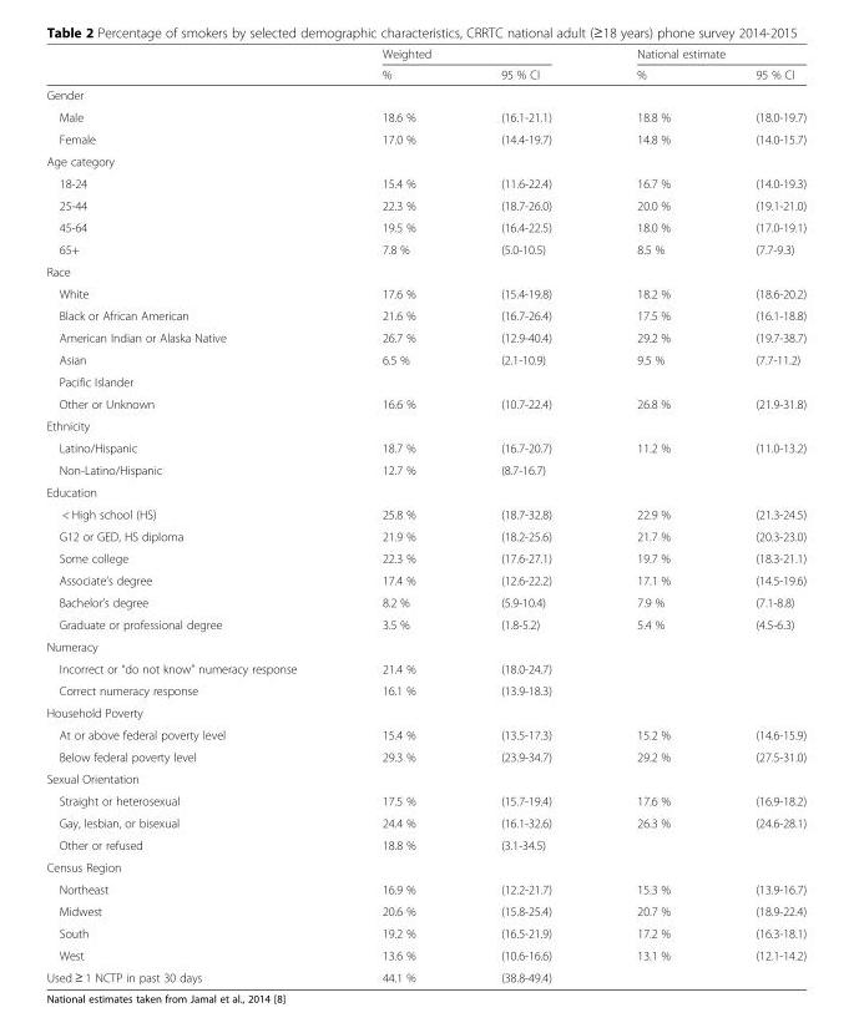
<table><thead><tr><td rowspan="2"></td><td colspan="2">Weighted</td><td colspan="2">National estimate</td></tr><tr><td>%</td><td>95 % CI</td><td>%</td><td>95 % CI</td></tr></thead><tbody><tr><td colspan="5">Gender</td></tr><tr><td>Male</td><td>18.6 %</td><td>(16.1-21.1)</td><td>18.8 %</td><td>(18.0-19.7)</td></tr><tr><td>Female</td><td>17.0 %</td><td>(14.4-19.7)</td><td>14.8 %</td><td>(14.0-15.7)</td></tr><tr><td colspan="5">Age category</td></tr><tr><td>18-24</td><td>15.4 %</td><td>(11.6-22.4)</td><td>16.7 %</td><td>(14.0-19.3)</td></tr><tr><td>25-44</td><td>22.3 %</td><td>(18.7-26.0)</td><td>20.0 %</td><td>(19.1-21.0)</td></tr><tr><td>45-64</td><td>19.5 %</td><td>(16.4-22.5)</td><td>18.0 %</td><td>(17.0-19.1)</td></tr><tr><td>65+</td><td>7.8 %</td><td>(5.0-10.5)</td><td>8.5 %</td><td>(7.7-9.3)</td></tr><tr><td colspan="5">Race</td></tr><tr><td>White</td><td>17.6 %</td><td>(15.4-19.8)</td><td>18.2 %</td><td>(18.6-20.2)</td></tr><tr><td>Black or African American</td><td>21.6 %</td><td>(16.7-26.4)</td><td>17.5 %</td><td>(16.1-18.8)</td></tr><tr><td>American Indian or Alaska Native</td><td>26.7 %</td><td>(12.9-40.4)</td><td>29.2 %</td><td>(19.7-38.7)</td></tr><tr><td>Asian</td><td>6.5 %</td><td>(2.1-10.9)</td><td>9.5 %</td><td>(7.7-11.2)</td></tr><tr><td colspan="5">Pacific Islander</td></tr><tr><td>Other or Unknown</td><td>16.6 %</td><td>(10.7-22.4)</td><td>26.8 %</td><td>(21.9-31.8)</td></tr><tr><td colspan="5">Ethnicity</td></tr><tr><td>Latino/Hispanic</td><td>18.7 %</td><td>(16.7-20.7)</td><td>11.2 %</td><td>(11.0-13.2)</td></tr><tr><td>Non-Latino/Hispanic</td><td>12.7 %</td><td>(8.7-16.7)</td><td></td><td></td></tr><tr><td colspan="5">Education</td></tr><tr><td>&lt; High school (HS)</td><td>25.8 %</td><td>(18.7-32.8)</td><td>22.9 %</td><td>(21.3-24.5)</td></tr><tr><td>G12 or GED, HS diploma</td><td>21.9 %</td><td>(18.2-25.6)</td><td>21.7 %</td><td>(20.3-23.0)</td></tr><tr><td>Some college</td><td>22.3 %</td><td>(17.6-27.1)</td><td>19.7 %</td><td>(18.3-21.1)</td></tr><tr><td>Associate’s degree</td><td>17.4 %</td><td>(12.6-22.2)</td><td>17.1 %</td><td>(14.5-19.6)</td></tr><tr><td>Bachelor’s degree</td><td>8.2 %</td><td>(5.9-10.4)</td><td>7.9 %</td><td>(7.1-8.8)</td></tr><tr><td>Graduate or professional degree</td><td>3.5 %</td><td>(1.8-5.2)</td><td>5.4 %</td><td>(4.5-6.3)</td></tr><tr><td colspan="5">Numeracy</td></tr><tr><td>Incorrect or “do not know” numeracy response</td><td>21.4 %</td><td>(18.0-24.7)</td><td></td><td></td></tr><tr><td>Correct numeracy response</td><td>16.1 %</td><td>(13.9-18.3)</td><td></td><td></td></tr><tr><td colspan="5">Household Poverty</td></tr><tr><td>At or above federal poverty level</td><td>15.4 %</td><td>(13.5-17.3)</td><td>15.2 %</td><td>(14.6-15.9)</td></tr><tr><td>Below federal poverty level</td><td>29.3 %</td><td>(23.9-34.7)</td><td>29.2 %</td><td>(27.5-31.0)</td></tr><tr><td colspan="5">Sexual Orientation</td></tr><tr><td>Straight or heterosexual</td><td>17.5 %</td><td>(15.7-19.4)</td><td>17.6 %</td><td>(16.9-18.2)</td></tr><tr><td>Gay, lesbian, or bisexual</td><td>24.4 %</td><td>(16.1-32.6)</td><td>26.3 %</td><td>(24.6-28.1)</td></tr><tr><td>Other or refused</td><td>18.8 %</td><td>(3.1-34.5)</td><td></td><td></td></tr><tr><td colspan="5">Census Region</td></tr><tr><td>Northeast</td><td>16.9 %</td><td>(12.2-21.7)</td><td>15.3 %</td><td>(13.9-16.7)</td></tr><tr><td>Midwest</td><td>20.6 %</td><td>(15.8-25.4)</td><td>20.7 %</td><td>(18.9-22.4)</td></tr><tr><td>South</td><td>19.2 %</td><td>(16.5-21.9)</td><td>17.2 %</td><td>(16.3-18.1)</td></tr><tr><td>West</td><td>13.6 %</td><td>(10.6-16.6)</td><td>13.1 %</td><td>(12.1-14.2)</td></tr><tr><td>Used ≥ 1 NCTP in past 30 days</td><td>44.1 %</td><td>(38.8-49.4)</td><td></td><td></td></tr></tbody></table>